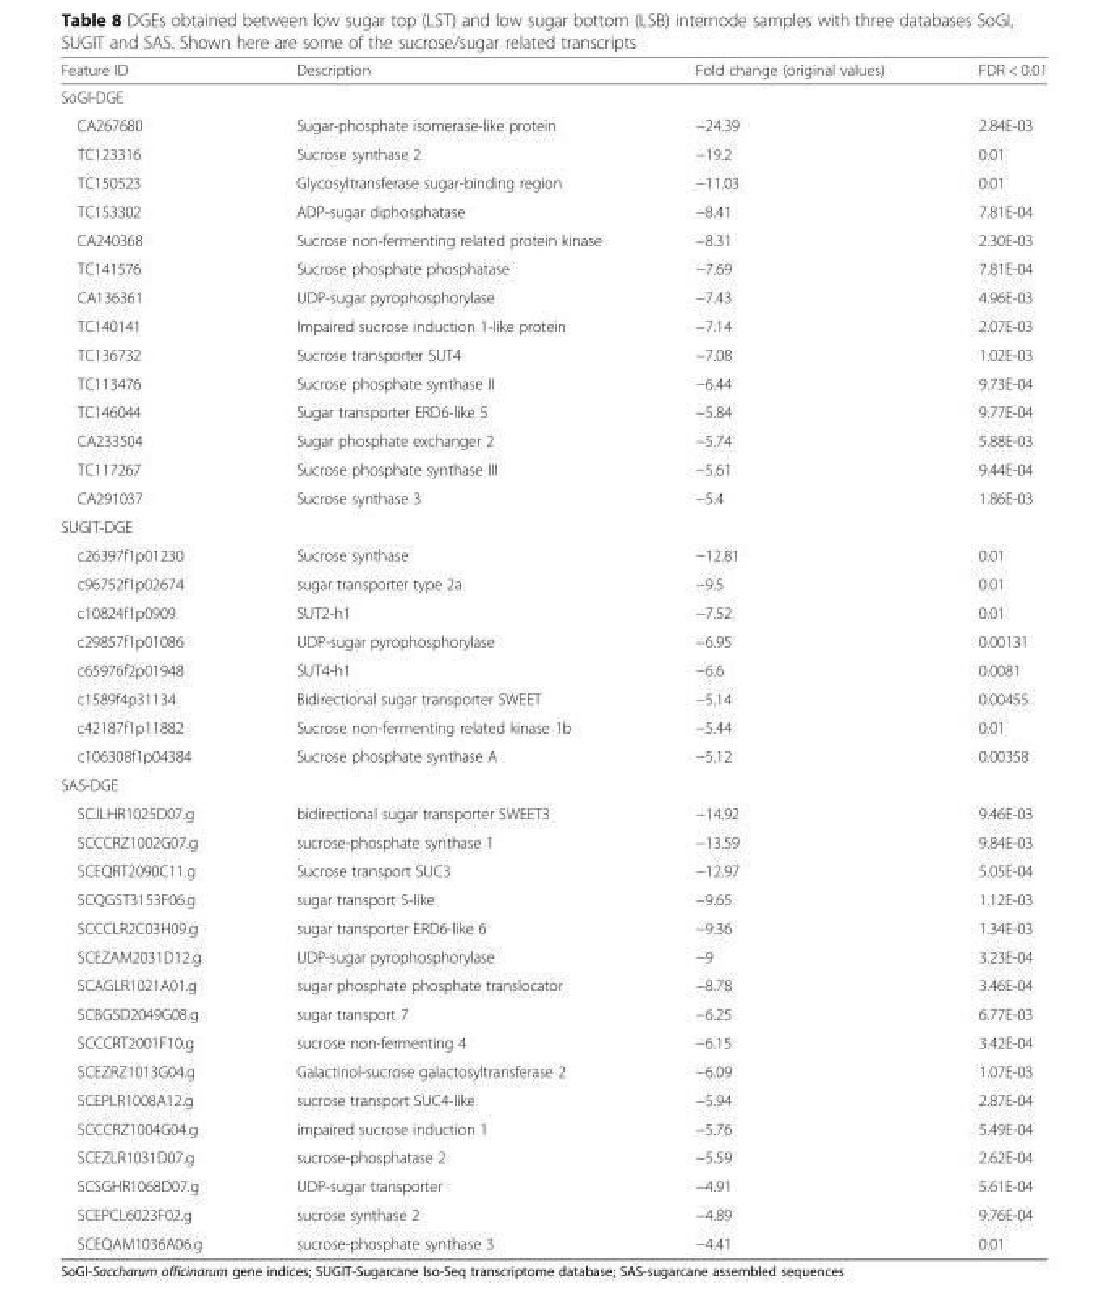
<table><thead><tr><td>Feature ID</td><td>Description</td><td>Fold change (original values)</td><td>FDR &lt; 0.01</td></tr></thead><tbody><tr><td colspan="4">SoGI-DGE</td></tr><tr><td>CA267680</td><td>Sugar-phosphate isomerase-like protein</td><td>−24.39</td><td>2.84E-03</td></tr><tr><td>TC123316</td><td>Sucrose synthase 2</td><td>−19.2</td><td>0.01</td></tr><tr><td>TC150523</td><td>Glycosyltransferase sugar-binding region</td><td>−11.03</td><td>0.01</td></tr><tr><td>TC153302</td><td>ADP-sugar diphosphatase</td><td>−8.41</td><td>7.81E-04</td></tr><tr><td>CA240368</td><td>Sucrose non-fermenting related protein kinase</td><td>−8.31</td><td>2.30E-03</td></tr><tr><td>TC141576</td><td>Sucrose phosphate phosphatase</td><td>−7.69</td><td>7.81E-04</td></tr><tr><td>CA136361</td><td>UDP-sugar pyrophosphorylase</td><td>−7.43</td><td>4.96E-03</td></tr><tr><td>TC140141</td><td>Impaired sucrose induction 1-like protein</td><td>−7.14</td><td>2.07E-03</td></tr><tr><td>TC136732</td><td>Sucrose transporter SUT4</td><td>−7.08</td><td>1.02E-03</td></tr><tr><td>TC113476</td><td>Sucrose phosphate synthase II</td><td>−6.44</td><td>9.73E-04</td></tr><tr><td>TC146044</td><td>Sugar transporter ERD6-like 5</td><td>−5.84</td><td>9.77E-04</td></tr><tr><td>CA233504</td><td>Sugar phosphate exchanger 2</td><td>−5.74</td><td>5.88E-03</td></tr><tr><td>TC117267</td><td>Sucrose phosphate synthase III</td><td>−5.61</td><td>9.44E-04</td></tr><tr><td>CA291037</td><td>Sucrose synthase 3</td><td>−5.4</td><td>1.86E-03</td></tr><tr><td colspan="4">SUGIT-DGE</td></tr><tr><td>c26397f1p01230</td><td>Sucrose synthase</td><td>−12.81</td><td>0.01</td></tr><tr><td>c96752f1p02674</td><td>sugar transporter type 2a</td><td>−9.5</td><td>0.01</td></tr><tr><td>c10824f1p0909</td><td>SUT2-h1</td><td>−7.52</td><td>0.01</td></tr><tr><td>c29857f1p01086</td><td>UDP-sugar pyrophosphorylase</td><td>−6.95</td><td>0.00131</td></tr><tr><td>c65976f2p01948</td><td>SUT4-h1</td><td>−6.6</td><td>0.0081</td></tr><tr><td>c1589f4p31134</td><td>Bidirectional sugar transporter SWEET</td><td>−5.14</td><td>0.00455</td></tr><tr><td>c42187f1p11882</td><td>Sucrose non-fermenting related kinase 1b</td><td>−5.44</td><td>0.01</td></tr><tr><td>c106308f1p04384</td><td>Sucrose phosphate synthase A</td><td>−5.12</td><td>0.00358</td></tr><tr><td colspan="4">SAS-DGE</td></tr><tr><td>SCJLHR1025D07.g</td><td>bidirectional sugar transporter SWEET3</td><td>−14.92</td><td>9.46E-03</td></tr><tr><td>SCCCRZ1002G07.g</td><td>sucrose-phosphate synthase 1</td><td>−13.59</td><td>9.84E-03</td></tr><tr><td>SCEQRT2090C11.g</td><td>Sucrose transport SUC3</td><td>−12.97</td><td>5.05E-04</td></tr><tr><td>SCQGST3153F06.g</td><td>sugar transport 5-like</td><td>−9.65</td><td>1.12E-03</td></tr><tr><td>SCCCLR2C03H09.g</td><td>sugar transporter ERD6-like 6</td><td>−9.36</td><td>1.34E-03</td></tr><tr><td>SCEZAM2031D12.g</td><td>UDP-sugar pyrophosphorylase</td><td>−9</td><td>3.23E-04</td></tr><tr><td>SCAGLR1021A01.g</td><td>sugar phosphate phosphate translocator</td><td>−8.78</td><td>3.46E-04</td></tr><tr><td>SCBGSD2049G08.g</td><td>sugar transport 7</td><td>−6.25</td><td>6.77E-03</td></tr><tr><td>SCCCRT2001F10.g</td><td>sucrose non-fermenting 4</td><td>−6.15</td><td>3.42E-04</td></tr><tr><td>SCEZRZ1013G04.g</td><td>Galactinol-sucrose galactosyltransferase 2</td><td>−6.09</td><td>1.07E-03</td></tr><tr><td>SCEPLR1008A12.g</td><td>sucrose transport SUC4-like</td><td>−5.94</td><td>2.87E-04</td></tr><tr><td>SCCCRZ1004G04.g</td><td>impaired sucrose induction 1</td><td>−5.76</td><td>5.49E-04</td></tr><tr><td>SCEZLR1031D07.g</td><td>sucrose-phosphatase 2</td><td>−5.59</td><td>2.62E-04</td></tr><tr><td>SCSGHR1068D07.g</td><td>UDP-sugar transporter</td><td>−4.91</td><td>5.61E-04</td></tr><tr><td>SCEPCL6023F02.g</td><td>sucrose synthase 2</td><td>−4.89</td><td>9.76E-04</td></tr><tr><td>SCEQAM1036A06.g</td><td>sucrose-phosphate synthase 3</td><td>−4.41</td><td>0.01</td></tr></tbody></table>